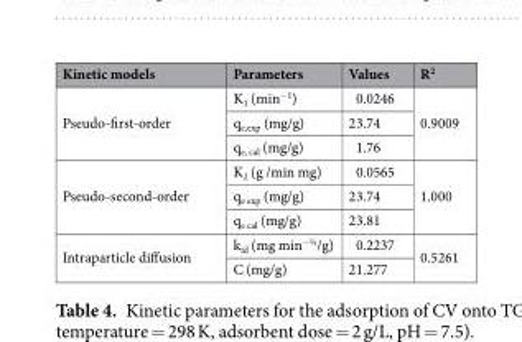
<table><thead><tr><td>Kinetic models</td><td>Parameters</td><td>Values</td><td>R<sup>2</sup></td></tr></thead><tbody><tr><td rowspan="3">Pseudo-first-order</td><td>K<sub>1</sub> (min<sup>−1</sup>)</td><td>0.0246</td><td rowspan="3">0.9009</td></tr><tr><td>q<sub>e,exp</sub> (mg/g)</td><td>23.74</td></tr><tr><td>q<sub>e, cal</sub> (mg/g)</td><td>1.76</td></tr><tr><td rowspan="3">Pseudo-second-order</td><td>K<sub>2</sub> (g /min mg)</td><td>0.0565</td><td rowspan="3">1.000</td></tr><tr><td>q<sub>e exp</sub> (mg/g)</td><td>23.74</td></tr><tr><td>q<sub>e cal</sub> (mg/g)</td><td>23.81</td></tr><tr><td rowspan="2">Intraparticle diffusion</td><td>k<sub>id</sub> (mg min<sup>−½</sup>/g)</td><td>0.2237</td><td rowspan="2">0.5261</td></tr><tr><td>C (mg/g)</td><td>21.277</td></tr></tbody></table>